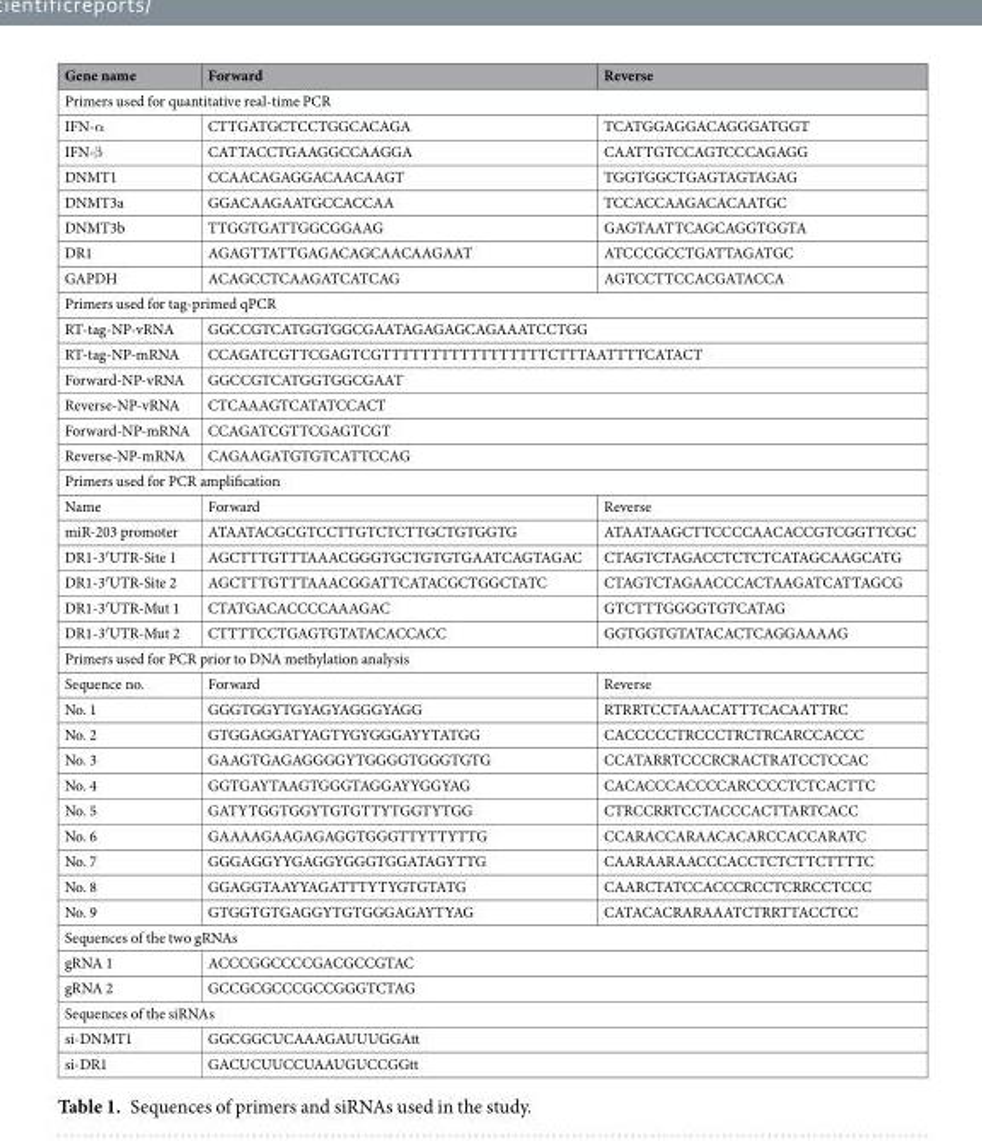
<table><thead><tr><td>Gene name</td><td>Forward</td><td>Reverse</td></tr></thead><tbody><tr><td colspan="3">Primers used for quantitative real-time PCR</td></tr><tr><td>IFN-α</td><td>CTTGATGCTCCTGGCACAGA</td><td>TCATGGAGGACAGGGATGGT</td></tr><tr><td>IFN-β</td><td>CATTACCTGAAGGCCAAGGA</td><td>CAATTGTCCAGTCCCAGAGG</td></tr><tr><td>DNMT1</td><td>CCAACAGAGGACAACAAGT</td><td>TGGTGGCTGAGTAGTAGAG</td></tr><tr><td>DNMT3a</td><td>GGACAAGAATGCCACCAA</td><td>TCCACCAAGACACAATGC</td></tr><tr><td>DNMT3b</td><td>TTGGTGATTGGCGGAAG</td><td>GAGTAATTCAGCAGGTGGTA</td></tr><tr><td>DR1</td><td>AGAGTTATTGAGACAGCAACAAGAAT</td><td>ATCCCGCCTGATTAGATGC</td></tr><tr><td>GAPDH</td><td>ACAGCCTCAAGATCATCAG</td><td>AGTCCTTCCACGATACCA</td></tr><tr><td colspan="3">Primers used for tag-primed qPCR</td></tr><tr><td>RT-tag-NP-vRNA</td><td colspan="2">GGCCGTCATGGTGGCGAATAGAGAGCAGAAATCCTGG</td></tr><tr><td>RT-tag-NP-mRNA</td><td colspan="2">CCAGATCGTTCGAGTCGTTTTTTTTTTTTTTTTTCTTTAATTTTCATACT</td></tr><tr><td>Forward-NP-vRNA</td><td colspan="2">GGCCGTCATGGTGGCGAAT</td></tr><tr><td>Reverse-NP-vRNA</td><td colspan="2">CTCAAAGTCATATCCACT</td></tr><tr><td>Forward-NP-mRNA</td><td colspan="2">CCAGATCGTTCGAGTCGT</td></tr><tr><td>Reverse-NP-mRNA</td><td colspan="2">CAGAAGATGTGTCATTCCAG</td></tr><tr><td colspan="3">Primers used for PCR amplification</td></tr><tr><td>Name</td><td>Forward</td><td>Reverse</td></tr><tr><td>miR-203 promoter</td><td>ATAATACGCGTCCTTGTCTCTTGCTGTGGTG</td><td>ATAATAAGCTTCCCCAACACCGTCGGTTCGC</td></tr><tr><td>DR1-3′UTR-Site 1</td><td>AGCTTTGTTTAAACGGGTGCTGTGTGAATCAGTAGAC</td><td>CTAGTCTAGACCTCTCTCATAGCAAGCATG</td></tr><tr><td>DR1-3′UTR-Site 2</td><td>AGCTTTGTTTAAACGGATTCATACGCTGGCTATC</td><td>CTAGTCTAGAACCCACTAAGATCATTAGCG</td></tr><tr><td>DR1-3′UTR-Mut 1</td><td>CTATGACACCCCAAAGAC</td><td>GTCTTTGGGGTGTCATAG</td></tr><tr><td>DR1-3′UTR-Mut 2</td><td>CTTTTCCTGAGTGTATACACCACC</td><td>GGTGGTGTATACACTCAGGAAAAG</td></tr><tr><td colspan="3">Primers used for PCR prior to DNA methylation analysis</td></tr><tr><td>Sequence no.</td><td>Forward</td><td>Reverse</td></tr><tr><td>No. 1</td><td>GGGTGGYTGYAGYAGGGYAGG</td><td>RTRRTCCTAAACATTTCACAATTRC</td></tr><tr><td>No. 2</td><td>GTGGAGGATYAGTYGYGGGAYYTATGG</td><td>CACCCCCTRCCCTRCTRCARCCACCC</td></tr><tr><td>No. 3</td><td>GAAGTGAGAGGGGYTGGGGTGGGTGTG</td><td>CCATARRTCCCRCRACTRATCCTCCAC</td></tr><tr><td>No. 4</td><td>GGTGAYTAAGTGGGTAGGAYYGGYAG</td><td>CACACCCACCCCARCCCCTCTCACTTC</td></tr><tr><td>No. 5</td><td>GATYTGGTGGYTGTGTTYTGGTYTGG</td><td>CTRCCRRTCCTACCCACTTARTCACC</td></tr><tr><td>No. 6</td><td>GAAAAGAAGAGAGGTGGGTTYTTYTTG</td><td>CCARACCARAACACARCCACCARATC</td></tr><tr><td>No. 7</td><td>GGGAGGYYGAGGYGGGTGGATAGYTTG</td><td>CAARAARAACCCACCTCTCTTCTTTTC</td></tr><tr><td>No. 8</td><td>GGAGGTAAYYAGATTTYTYGTGTATG</td><td>CAARCTATCCACCCRCCTCRRCCTCCC</td></tr><tr><td>No. 9</td><td>GTGGTGTGAGGYTGTGGGAGAYTYAG</td><td>CATACACRARAAATCTRRTTACCTCC</td></tr><tr><td colspan="3">Sequences of the two gRNAs</td></tr><tr><td>gRNA 1</td><td colspan="2">ACCCGGCCCCGACGCCGTAC</td></tr><tr><td>gRNA 2</td><td colspan="2">GCCGCGCCCGCCGGGTCTAG</td></tr><tr><td colspan="3">Sequences of the siRNAs</td></tr><tr><td>si-DNMT1</td><td colspan="2">GGCGGCUCAAAGAUUUGGAtt</td></tr><tr><td>si-DR1</td><td colspan="2">GACUCUUCCUAAUGUCCGGtt</td></tr></tbody></table>